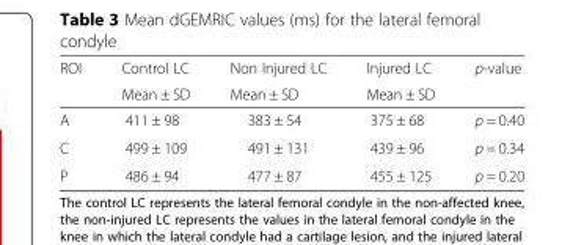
<table><thead><tr><td rowspan="2">ROI</td><td rowspan="2">Control LC Mean ± SD</td><td rowspan="2">Non Injured LC Mean ± SD</td><td rowspan="2">Injured LC Mean ± SD</td><td rowspan="2">p-value</td></tr><tr></tr></thead><tbody><tr><td>A</td><td>411 ± 98</td><td>383 ± 54</td><td>375 ± 68</td><td>p = 0.40</td></tr><tr><td>C</td><td>499 ± 109</td><td>491 ± 131</td><td>439 ± 96</td><td>p = 0.34</td></tr><tr><td>P</td><td>486 ± 94</td><td>477 ± 87</td><td>455 ± 125</td><td>p = 0.20</td></tr></tbody></table>